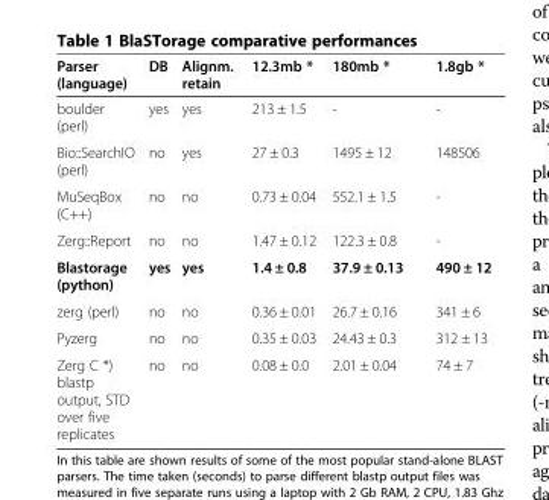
<table><thead><tr><td>Parser (language)</td><td>DB</td><td>Alignm. retain</td><td>12.3mb *</td><td>180mb *</td><td>1.8gb *</td></tr></thead><tbody><tr><td>boulder (perl)</td><td>yes</td><td>yes</td><td>213 ± 1.5</td><td>-</td><td>-</td></tr><tr><td>Bio::SearchIO (perl)</td><td>no</td><td>yes</td><td>27 ± 0.3</td><td>1495 ± 12</td><td>148506</td></tr><tr><td>MuSeqBox (C++)</td><td>no</td><td>no</td><td>0.73 ± 0.04</td><td>552.1 ± 1.5</td><td>-</td></tr><tr><td>Zerg::Report</td><td>no</td><td>no</td><td>1.47 ± 0.12</td><td>122.3 ± 0.8</td><td>-</td></tr><tr><td>Blastorage (python)</td><td>yes</td><td>yes</td><td>1.4 ± 0.8</td><td>37.9 ± 0.13</td><td>490 ± 12</td></tr><tr><td>zerg (perl)</td><td>no</td><td>no</td><td>0.36 ± 0.01</td><td>26.7 ± 0.16</td><td>341 ± 6</td></tr><tr><td>Pyzerg</td><td>no</td><td>no</td><td>0.35 ± 0.03</td><td>24.43 ± 0.3</td><td>312 ± 13</td></tr><tr><td>Zerg C *) blastp output, STD over five replicates</td><td>no</td><td>no</td><td>0.08 ± 0.0</td><td>2.01 ± 0.04</td><td>74 ± 7</td></tr></tbody></table>